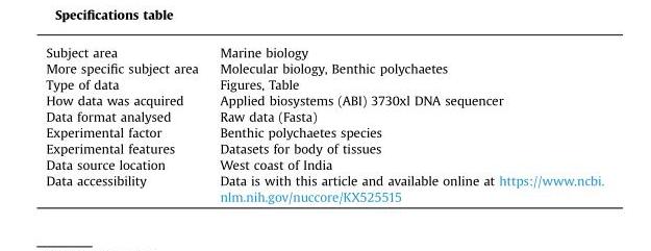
<table><thead><tr><td>Subject area</td><td>Marine biology</td></tr></thead><tbody><tr><td>More specific subject area</td><td>Molecular biology, Benthic polychaetes</td></tr><tr><td>Type of data</td><td>Figures, Table</td></tr><tr><td>How data was acquired</td><td>Applied biosystems (ABI) 3730xl DNA sequencer</td></tr><tr><td>Data format analysed</td><td>Raw data (Fasta)</td></tr><tr><td>Experimental factor</td><td>Benthic polychaetes species</td></tr><tr><td>Experimental features</td><td>Datasets for body of tissues</td></tr><tr><td>Data source location</td><td>West coast of India</td></tr><tr><td>Data accessibility</td><td>Data is with this article and available online at https://www.ncbi. nlm.nih.gov/nuccore/KX525515</td></tr></tbody></table>